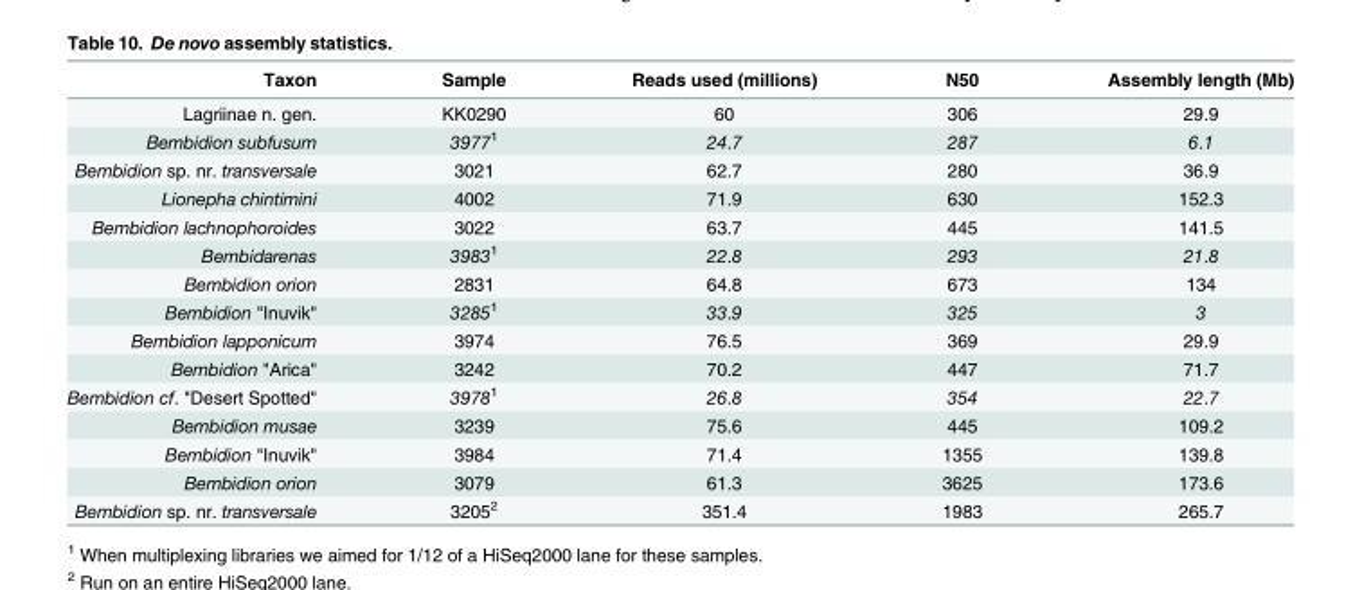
<table><thead><tr><td>Taxon</td><td>Sample</td><td>Reads used (millions)</td><td>N50</td><td>Assembly length (Mb)</td></tr></thead><tbody><tr><td>Lagriinae n. gen.</td><td>KK0290</td><td>60</td><td>306</td><td>29.9</td></tr><tr><td>Bembidion subfusum</td><td>3977<sup>1</sup></td><td>24.7</td><td>287</td><td>6.1</td></tr><tr><td>Bembidion sp. nr. transversale</td><td>3021</td><td>62.7</td><td>280</td><td>36.9</td></tr><tr><td>Lionepha chintimini</td><td>4002</td><td>71.9</td><td>630</td><td>152.3</td></tr><tr><td>Bembidion lachnophoroides</td><td>3022</td><td>63.7</td><td>445</td><td>141.5</td></tr><tr><td>Bembidarenas</td><td>3983<sup>1</sup></td><td>22.8</td><td>293</td><td>21.8</td></tr><tr><td>Bembidion orion</td><td>2831</td><td>64.8</td><td>673</td><td>134</td></tr><tr><td>Bembidion &quot;Inuvik&quot;</td><td>3285<sup>1</sup></td><td>33.9</td><td>325</td><td>3</td></tr><tr><td>Bembidion lapponicum</td><td>3974</td><td>76.5</td><td>369</td><td>29.9</td></tr><tr><td>Bembidion &quot;Arica&quot;</td><td>3242</td><td>70.2</td><td>447</td><td>71.7</td></tr><tr><td>Bembidion cf. &quot;Desert Spotted&quot;</td><td>3978<sup>1</sup></td><td>26.8</td><td>354</td><td>22.7</td></tr><tr><td>Bembidion musae</td><td>3239</td><td>75.6</td><td>445</td><td>109.2</td></tr><tr><td>Bembidion &quot;Inuvik&quot;</td><td>3984</td><td>71.4</td><td>1355</td><td>139.8</td></tr><tr><td>Bembidion orion</td><td>3079</td><td>61.3</td><td>3625</td><td>173.6</td></tr><tr><td>Bembidion sp. nr. transversale</td><td>3205<sup>2</sup></td><td>351.4</td><td>1983</td><td>265.7</td></tr></tbody></table>